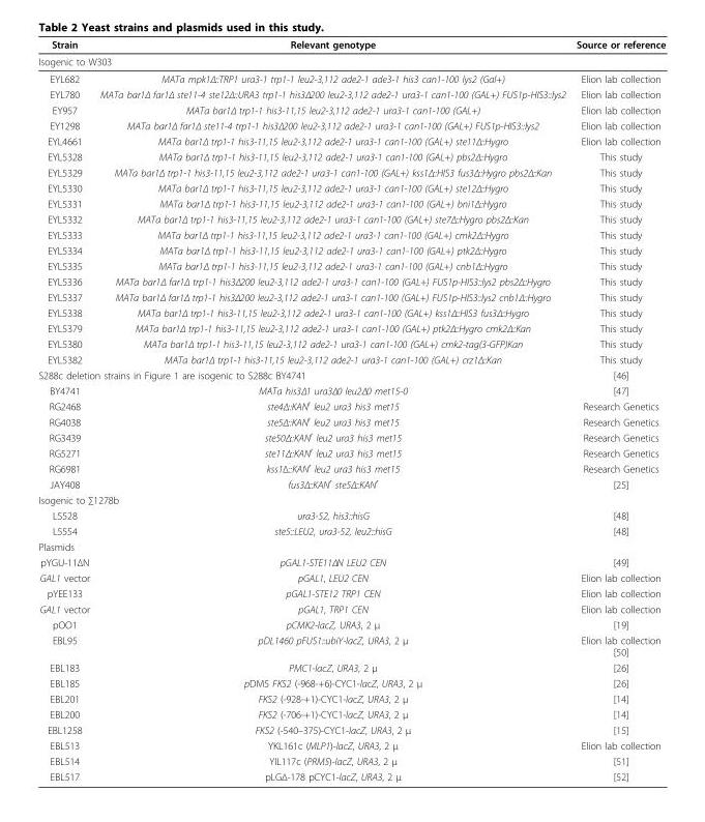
<table><thead><tr><td>Strain</td><td>Relevant genotype</td><td>Source or reference</td></tr></thead><tbody><tr><td colspan="3">Isogenic to W303</td></tr><tr><td>EYL682</td><td>MATa mpk1Δ::TRP1 ura3-1 trp1-1 leu2-3,112 ade2-1 ade3-1 his3 can1-100 lys2 (Gal+)</td><td>Elion lab collection</td></tr><tr><td>EYL780</td><td>MATa bar1Δ far1Δ ste11-4 ste12Δ::URA3 trp1-1 his3Δ200 leu2-3,112 ade2-1 ura3-1 can1-100 (GAL+) FUS1p-HIS3::lys2</td><td>Elion lab collection</td></tr><tr><td>EY957</td><td>MATa bar1Δ trp1-1 his3-11,15 leu2-3,112 ade2-1 ura3-1 can1-100 (GAL+)</td><td>Elion lab collection</td></tr><tr><td>EY1298</td><td>MATa bar1Δ far1Δ ste11-4 trp1-1 his3Δ200 leu2-3,112 ade2-1 ura3-1 can1-100 (GAL+) FUS1p-HIS3::lys2</td><td>Elion lab collection</td></tr><tr><td>EYL4661</td><td>MATa bar1Δ trp1-1 his3-11,15 leu2-3,112 ade2-1 ura3-1 can1-100 (GAL+) ste11Δ::Hygro</td><td>Elion lab collection</td></tr><tr><td>EYL5328</td><td>MATa bar1Δ trp1-1 his3-11,15 leu2-3,112 ade2-1 ura3-1 can1-100 (GAL+) pbs2Δ::Hygro</td><td>This study</td></tr><tr><td>EYL5329</td><td>MATa bar1Δ trp1-1 his3-11,15 leu2-3,112 ade2-1 ura3-1 can1-100 (GAL+) kss1Δ::HIS3 fus3Δ::Hygro pbs2Δ::Kan</td><td>This study</td></tr><tr><td>EYL5330</td><td>MATa bar1Δ trp1-1 his3-11,15 leu2-3,112 ade2-1 ura3-1 can1-100 (GAL+) ste12Δ::Hygro</td><td>This study</td></tr><tr><td>EYL5331</td><td>MATa bar1Δ trp1-1 his3-11,15 leu2-3,112 ade2-1 ura3-1 can1-100 (GAL+) bni1Δ::Hygro</td><td>This study</td></tr><tr><td>EYL5332</td><td>MATa bar1Δ trp1-1 his3-11,15 leu2-3,112 ade2-1 ura3-1 can1-100 (GAL+) ste7Δ::Hygro pbs2Δ::Kan</td><td>This study</td></tr><tr><td>EYL5333</td><td>MATa bar1Δ trp1-1 his3-11,15 leu2-3,112 ade2-1 ura3-1 can1-100 (GAL+) cmk2Δ::Hygro</td><td>This study</td></tr><tr><td>EYL5334</td><td>MATa bar1Δ trp1-1 his3-11,15 leu2-3,112 ade2-1 ura3-1 can1-100 (GAL+) ptk2Δ::Hygro</td><td>This study</td></tr><tr><td>EYL5335</td><td>MATa bar1Δ trp1-1 his3-11,15 leu2-3,112 ade2-1 ura3-1 can1-100 (GAL+) cnb1Δ::Hygro</td><td>This study</td></tr><tr><td>EYL5336</td><td>MATa bar1Δ far1Δ trp1-1 his3Δ200 leu2-3,112 ade2-1 ura3-1 can1-100 (GAL+) FUS1p-HIS3::lys2 pbs2Δ::Hygro</td><td>This study</td></tr><tr><td>EYL5337</td><td>MATa bar1Δ far1Δ trp1-1 his3Δ200 leu2-3,112 ade2-1 ura3-1 can1-100 (GAL+) FUS1p-HIS3::lys2 cnb1Δ::Hygro</td><td>This study</td></tr><tr><td>EYL5338</td><td>MATa bar1Δ trp1-1 his3-11,15 leu2-3,112 ade2-1 ura3-1 can1-100 (GAL+) kss1Δ::HIS3 fus3Δ::Hygro</td><td>This study</td></tr><tr><td>EYL5379</td><td>MATa bar1Δ trp1-1 his3-11,15 leu2-3,112 ade2-1 ura3-1 can1-100 (GAL+) ptk2Δ::Hygro cmk2Δ::Kan</td><td>This study</td></tr><tr><td>EYL5380</td><td>MATa bar1Δ trp1-1 his3-11,15 leu2-3,112 ade2-1 ura3-1 can1-100 (GAL+) cmk2-tag(3-GFP)Kan</td><td>This study</td></tr><tr><td>EYL5382</td><td>MATa bar1Δ trp1-1 his3-11,15 leu2-3,112 ade2-1 ura3-1 can1-100 (GAL+) crz1Δ::Kan</td><td>This study</td></tr><tr><td colspan="2">S288c deletion strains in Figure 1 are isogenic to S288c BY4741</td><td>[46]</td></tr><tr><td>BY4741</td><td>MATa his3Δ1 ura3Δ0 leu2Δ0 met15-0</td><td>[47]</td></tr><tr><td>RG2468</td><td>ste4Δ::KAN<sup>r</sup> leu2 ura3 his3 met15</td><td>Research Genetics</td></tr><tr><td>RG4038</td><td>ste5Δ::KAN<sup>r</sup> leu2 ura3 his3 met15</td><td>Research Genetics</td></tr><tr><td>RG3439</td><td>ste50Δ::KAN<sup>r</sup> leu2 ura3 his3 met15</td><td>Research Genetics</td></tr><tr><td>RG5271</td><td>ste11Δ::KAN<sup>r</sup> leu2 ura3 his3 met15</td><td>Research Genetics</td></tr><tr><td>RG6981</td><td>kss1Δ::KAN<sup>r</sup> leu2 ura3 his3 met15</td><td>Research Genetics</td></tr><tr><td>JAY408</td><td>fus3Δ::KAN<sup>r</sup> ste5Δ::KAN<sup>r</sup></td><td>[25]</td></tr><tr><td colspan="3">Isogenic to ∑1278b</td></tr><tr><td>L5528</td><td>ura3-52, his3::hisG</td><td>[48]</td></tr><tr><td>L5554</td><td>ste5::LEU2, ura3-52, leu2::hisG</td><td>[48]</td></tr><tr><td colspan="3">Plasmids</td></tr><tr><td>pYGU-11ΔN</td><td>pGAL1-STE11ΔN LEU2 CEN</td><td>[49]</td></tr><tr><td>GAL1 vector</td><td>pGAL1, LEU2 CEN</td><td>Elion lab collection</td></tr><tr><td>pYEE133</td><td>pGAL1-STE12 TRP1 CEN</td><td>Elion lab collection</td></tr><tr><td>GAL1 vector</td><td>pGAL1, TRP1 CEN</td><td>Elion lab collection</td></tr><tr><td>pOO1</td><td>pCMK2-lacZ, URA3, 2 μ</td><td>[19]</td></tr><tr><td>EBL95</td><td>pDL1460 pFUS1::ubiY-lacZ, URA3, 2 μ</td><td>Elion lab collection [50]</td></tr><tr><td>EBL183</td><td>PMC1-lacZ, URA3, 2 μ</td><td>[26]</td></tr><tr><td>EBL185</td><td>pDM5 FKS2 (-968-+6)-CYC1-lacZ, URA3, 2 μ</td><td>[26]</td></tr><tr><td>EBL201</td><td>FKS2 (-928-+1)-CYC1-lacZ, URA3, 2 μ</td><td>[14]</td></tr><tr><td>EBL200</td><td>FKS2 (-706-+1)-CYC1-lacZ, URA3, 2 μ</td><td>[14]</td></tr><tr><td>EBL1258</td><td>FKS2 (-540–375)-CYC1-lacZ, URA3, 2 μ</td><td>[15]</td></tr><tr><td>EBL513</td><td>YKL161c (MLP1)-lacZ, URA3, 2 μ</td><td>Elion lab collection</td></tr><tr><td>EBL514</td><td>YIL117c (PRM5)-lacZ, URA3, 2 μ</td><td>[51]</td></tr><tr><td>EBL517</td><td>pLGΔ-178 pCYC1-lacZ, URA3, 2 μ</td><td>[52]</td></tr></tbody></table>